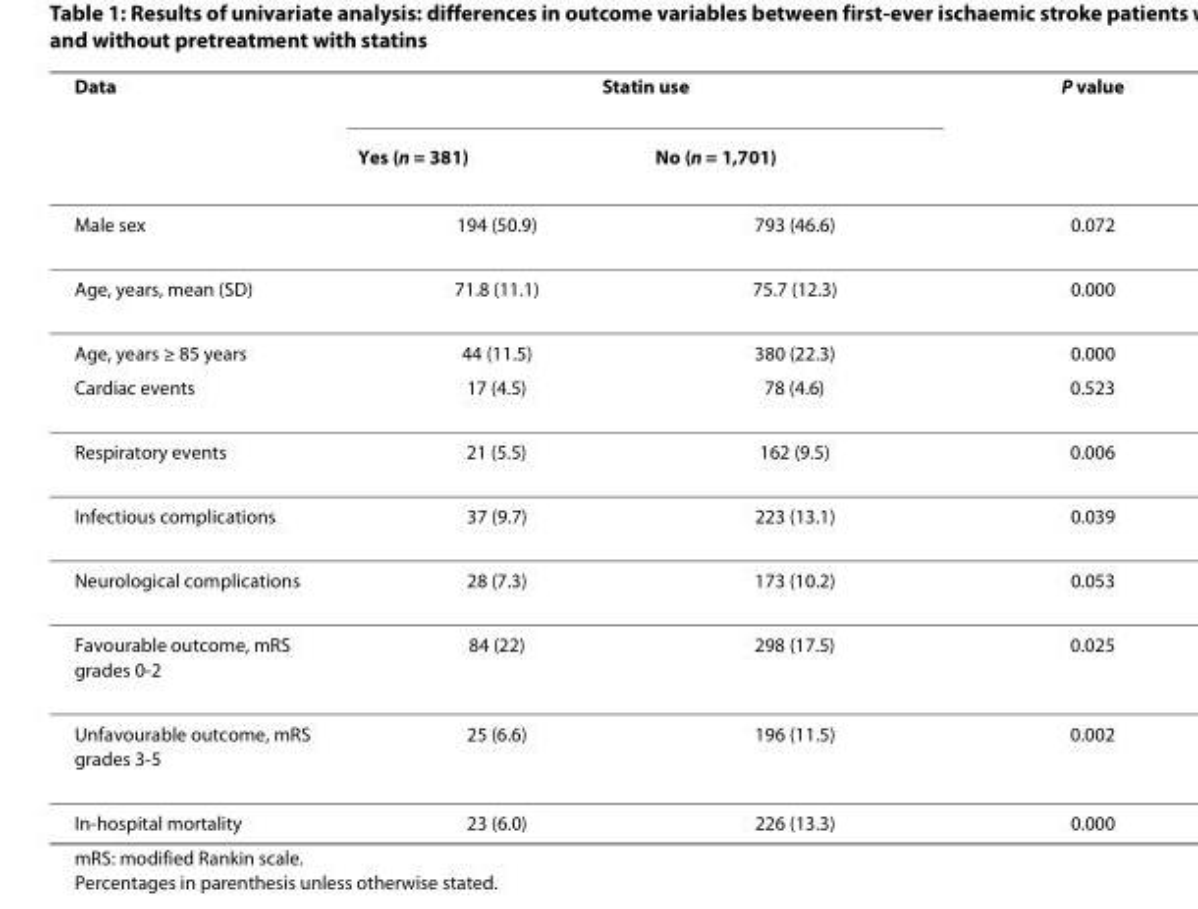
<table><thead><tr><td rowspan="2">Data</td><td colspan="2">Statin use</td><td rowspan="2">P value</td></tr><tr><td>Yes (n = 381)</td><td>No (n = 1,701)</td></tr></thead><tbody><tr><td>Male sex</td><td>194 (50.9)</td><td>793 (46.6)</td><td>0.072</td></tr><tr><td>Age, years, mean (SD)</td><td>71.8 (11.1)</td><td>75.7 (12.3)</td><td>0.000</td></tr><tr><td>Age, years ≥ 85 years</td><td>44 (11.5)</td><td>380 (22.3)</td><td>0.000</td></tr><tr><td>Cardiac events</td><td>17 (4.5)</td><td>78 (4.6)</td><td>0.523</td></tr><tr><td>Respiratory events</td><td>21 (5.5)</td><td>162 (9.5)</td><td>0.006</td></tr><tr><td>Infectious complications</td><td>37 (9.7)</td><td>223 (13.1)</td><td>0.039</td></tr><tr><td>Neurological complications</td><td>28 (7.3)</td><td>173 (10.2)</td><td>0.053</td></tr><tr><td>Favourable outcome, mRS grades 0-2</td><td>84 (22)</td><td>298 (17.5)</td><td>0.025</td></tr><tr><td>Unfavourable outcome, mRS grades 3-5</td><td>25 (6.6)</td><td>196 (11.5)</td><td>0.002</td></tr><tr><td>In-hospital mortality</td><td>23 (6.0)</td><td>226 (13.3)</td><td>0.000</td></tr></tbody></table>